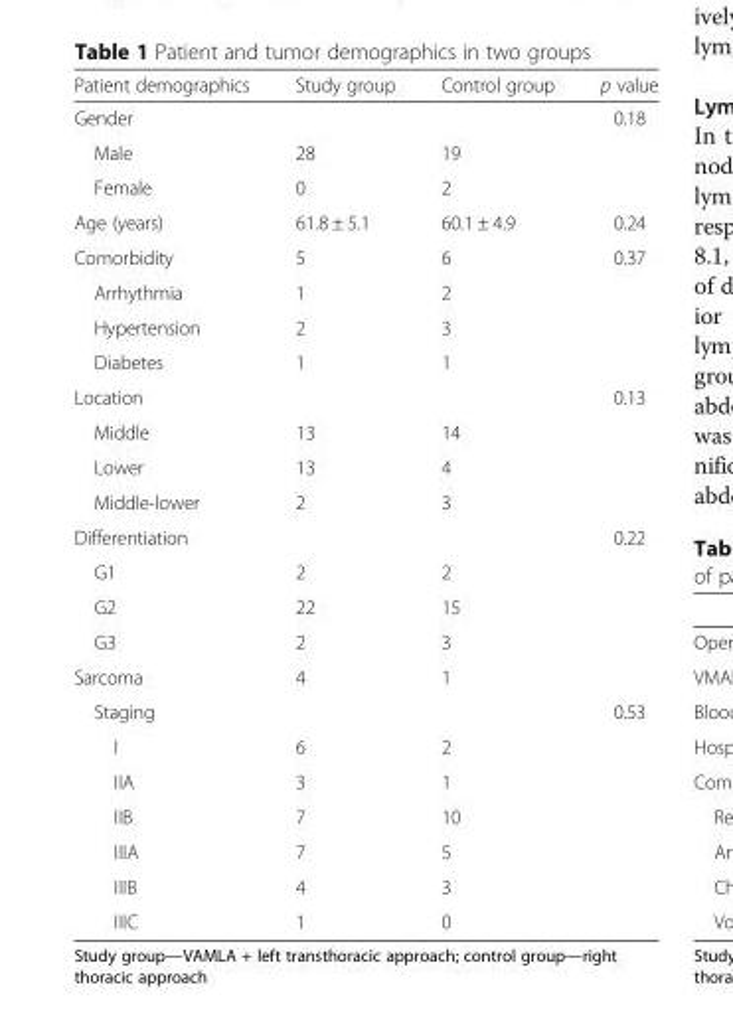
<table><thead><tr><td>Patient demographics</td><td>Study group</td><td>Control group</td><td>p value</td></tr></thead><tbody><tr><td>Gender</td><td></td><td></td><td>0.18</td></tr><tr><td>Male</td><td>28</td><td>19</td><td></td></tr><tr><td>Female</td><td>0</td><td>2</td><td></td></tr><tr><td>Age (years)</td><td>61.8 ± 5.1</td><td>60.1 ± 4.9</td><td>0.24</td></tr><tr><td>Comorbidity</td><td>5</td><td>6</td><td>0.37</td></tr><tr><td>Arrhythmia</td><td>1</td><td>2</td><td></td></tr><tr><td>Hypertension</td><td>2</td><td>3</td><td></td></tr><tr><td>Diabetes</td><td>1</td><td>1</td><td></td></tr><tr><td>Location</td><td></td><td></td><td>0.13</td></tr><tr><td>Middle</td><td>13</td><td>14</td><td></td></tr><tr><td>Lower</td><td>13</td><td>4</td><td></td></tr><tr><td>Middle-lower</td><td>2</td><td>3</td><td></td></tr><tr><td>Differentiation</td><td></td><td></td><td>0.22</td></tr><tr><td>G1</td><td>2</td><td>2</td><td></td></tr><tr><td>G2</td><td>22</td><td>15</td><td></td></tr><tr><td>G3</td><td>2</td><td>3</td><td></td></tr><tr><td>Sarcoma</td><td>4</td><td>1</td><td></td></tr><tr><td>Staging</td><td></td><td></td><td>0.53</td></tr><tr><td>I</td><td>6</td><td>2</td><td></td></tr><tr><td>IIA</td><td>3</td><td>1</td><td></td></tr><tr><td>IIB</td><td>7</td><td>10</td><td></td></tr><tr><td>IIIA</td><td>7</td><td>5</td><td></td></tr><tr><td>IIIB</td><td>4</td><td>3</td><td></td></tr><tr><td>IIIC</td><td>1</td><td>0</td><td></td></tr></tbody></table>